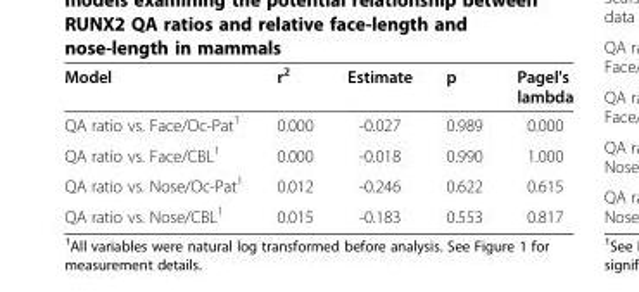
<table><thead><tr><td>Model</td><td>r<sup>2</sup></td><td>Estimate</td><td>p</td><td>Pagel&#x27;s lambda</td></tr></thead><tbody><tr><td>QA ratio vs. Face/Oc-Pat<sup>1</sup></td><td>0.000</td><td>-0.027</td><td>0.989</td><td>0.000</td></tr><tr><td>QA ratio vs. Face/CBL<sup>1</sup></td><td>0.000</td><td>-0.018</td><td>0.990</td><td>1.000</td></tr><tr><td>QA ratio vs. Nose/Oc-Pat<sup>1</sup></td><td>0.012</td><td>-0.246</td><td>0.622</td><td>0.615</td></tr><tr><td>QA ratio vs. Nose/CBL<sup>1</sup></td><td>0.015</td><td>-0.183</td><td>0.553</td><td>0.817</td></tr></tbody></table>